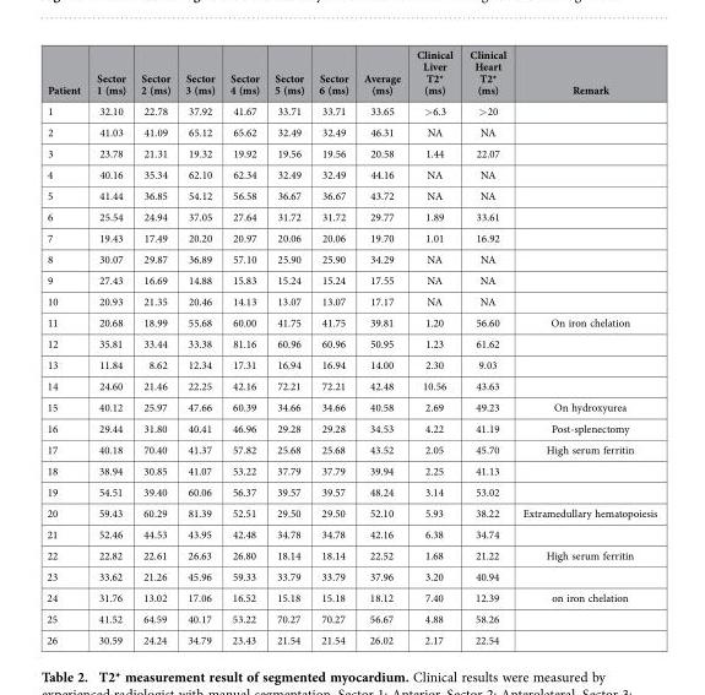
<table><thead><tr><td>Patient</td><td>Sector 1 (ms)</td><td>Sector 2 (ms)</td><td>Sector 3 (ms)</td><td>Sector 4 (ms)</td><td>Sector 5 (ms)</td><td>Sector 6 (ms)</td><td>Average (ms)</td><td>Clinical Liver T2* (ms)</td><td>Clinical Heart T2* (ms)</td><td>Remark</td></tr></thead><tbody><tr><td>1</td><td>32.10</td><td>22.78</td><td>37.92</td><td>41.67</td><td>33.71</td><td>33.71</td><td>33.65</td><td>&gt; 6.3</td><td>&gt; 20</td><td></td></tr><tr><td>2</td><td>41.03</td><td>41.09</td><td>65.12</td><td>65.62</td><td>32.49</td><td>32.49</td><td>46.31</td><td>NA</td><td>NA</td><td></td></tr><tr><td>3</td><td>23.78</td><td>21.31</td><td>19.32</td><td>19.92</td><td>19.56</td><td>19.56</td><td>20.58</td><td>1.44</td><td>22.07</td><td></td></tr><tr><td>4</td><td>40.16</td><td>35.34</td><td>62.10</td><td>62.34</td><td>32.49</td><td>32.49</td><td>44.16</td><td>NA</td><td>NA</td><td></td></tr><tr><td>5</td><td>41.44</td><td>36.85</td><td>54.12</td><td>56.58</td><td>36.67</td><td>36.67</td><td>43.72</td><td>NA</td><td>NA</td><td></td></tr><tr><td>6</td><td>25.54</td><td>24.94</td><td>37.05</td><td>27.64</td><td>31.72</td><td>31.72</td><td>29.77</td><td>1.89</td><td>33.61</td><td></td></tr><tr><td>7</td><td>19.43</td><td>17.49</td><td>20.20</td><td>20.97</td><td>20.06</td><td>20.06</td><td>19.70</td><td>1.01</td><td>16.92</td><td></td></tr><tr><td>8</td><td>30.07</td><td>29.87</td><td>36.89</td><td>57.10</td><td>25.90</td><td>25.90</td><td>34.29</td><td>NA</td><td>NA</td><td></td></tr><tr><td>9</td><td>27.43</td><td>16.69</td><td>14.88</td><td>15.83</td><td>15.24</td><td>15.24</td><td>17.55</td><td>NA</td><td>NA</td><td></td></tr><tr><td>10</td><td>20.93</td><td>21.35</td><td>20.46</td><td>14.13</td><td>13.07</td><td>13.07</td><td>17.17</td><td>NA</td><td>NA</td><td></td></tr><tr><td>11</td><td>20.68</td><td>18.99</td><td>55.68</td><td>60.00</td><td>41.75</td><td>41.75</td><td>39.81</td><td>1.20</td><td>56.60</td><td>On iron chelation</td></tr><tr><td>12</td><td>35.81</td><td>33.44</td><td>33.38</td><td>81.16</td><td>60.96</td><td>60.96</td><td>50.95</td><td>1.23</td><td>61.62</td><td></td></tr><tr><td>13</td><td>11.84</td><td>8.62</td><td>12.34</td><td>17.31</td><td>16.94</td><td>16.94</td><td>14.00</td><td>2.30</td><td>9.03</td><td></td></tr><tr><td>14</td><td>24.60</td><td>21.46</td><td>22.25</td><td>42.16</td><td>72.21</td><td>72.21</td><td>42.48</td><td>10.56</td><td>43.63</td><td></td></tr><tr><td>15</td><td>40.12</td><td>25.97</td><td>47.66</td><td>60.39</td><td>34.66</td><td>34.66</td><td>40.58</td><td>2.69</td><td>49.23</td><td>On hydroxyurea</td></tr><tr><td>16</td><td>29.44</td><td>31.80</td><td>40.41</td><td>46.96</td><td>29.28</td><td>29.28</td><td>34.53</td><td>4.22</td><td>41.19</td><td>Post-splenectomy</td></tr><tr><td>17</td><td>40.18</td><td>70.40</td><td>41.37</td><td>57.82</td><td>25.68</td><td>25.68</td><td>43.52</td><td>2.05</td><td>45.70</td><td>High serum ferritin</td></tr><tr><td>18</td><td>38.94</td><td>30.85</td><td>41.07</td><td>53.22</td><td>37.79</td><td>37.79</td><td>39.94</td><td>2.25</td><td>41.13</td><td></td></tr><tr><td>19</td><td>54.51</td><td>39.40</td><td>60.06</td><td>56.37</td><td>39.57</td><td>39.57</td><td>48.24</td><td>3.14</td><td>53.02</td><td></td></tr><tr><td>20</td><td>59.43</td><td>60.29</td><td>81.39</td><td>52.51</td><td>29.50</td><td>29.50</td><td>52.10</td><td>5.93</td><td>38.22</td><td>Extramedullary hematopoiesis</td></tr><tr><td>21</td><td>52.46</td><td>44.53</td><td>43.95</td><td>42.48</td><td>34.78</td><td>34.78</td><td>42.16</td><td>6.38</td><td>34.74</td><td></td></tr><tr><td>22</td><td>22.82</td><td>22.61</td><td>26.63</td><td>26.80</td><td>18.14</td><td>18.14</td><td>22.52</td><td>1.68</td><td>21.22</td><td>High serum ferritin</td></tr><tr><td>23</td><td>33.62</td><td>21.26</td><td>45.96</td><td>59.33</td><td>33.79</td><td>33.79</td><td>37.96</td><td>3.20</td><td>40.94</td><td></td></tr><tr><td>24</td><td>31.76</td><td>13.02</td><td>17.06</td><td>16.52</td><td>15.18</td><td>15.18</td><td>18.12</td><td>7.40</td><td>12.39</td><td>on iron chelation</td></tr><tr><td>25</td><td>41.52</td><td>64.59</td><td>40.17</td><td>53.22</td><td>70.27</td><td>70.27</td><td>56.67</td><td>4.88</td><td>58.26</td><td></td></tr><tr><td>26</td><td>30.59</td><td>24.24</td><td>34.79</td><td>23.43</td><td>21.54</td><td>21.54</td><td>26.02</td><td>2.17</td><td>22.54</td><td></td></tr></tbody></table>